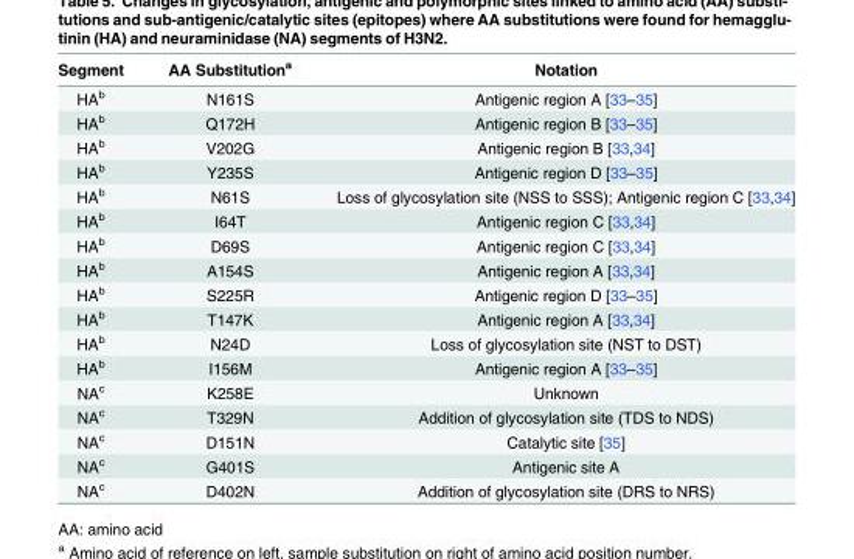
<table><thead><tr><td>Segment</td><td>AA Substitution<sup>a</sup></td><td>Notation</td></tr></thead><tbody><tr><td>HA<sup>b</sup></td><td>N161S</td><td>Antigenic region A [33–35]</td></tr><tr><td>HA<sup>b</sup></td><td>Q172H</td><td>Antigenic region B [33–35]</td></tr><tr><td>HA<sup>b</sup></td><td>V202G</td><td>Antigenic region B [33,34]</td></tr><tr><td>HA<sup>b</sup></td><td>Y235S</td><td>Antigenic region D [33–35]</td></tr><tr><td>HA<sup>b</sup></td><td>N61S</td><td>Loss of glycosylation site (NSS to SSS); Antigenic region C [33,34]</td></tr><tr><td>HA<sup>b</sup></td><td>I64T</td><td>Antigenic region C [33,34]</td></tr><tr><td>HA<sup>b</sup></td><td>D69S</td><td>Antigenic region C [33,34]</td></tr><tr><td>HA<sup>b</sup></td><td>A154S</td><td>Antigenic region A [33,34]</td></tr><tr><td>HA<sup>b</sup></td><td>S225R</td><td>Antigenic region D [33–35]</td></tr><tr><td>HA<sup>b</sup></td><td>T147K</td><td>Antigenic region A [33,34]</td></tr><tr><td>HA<sup>b</sup></td><td>N24D</td><td>Loss of glycosylation site (NST to DST)</td></tr><tr><td>HA<sup>b</sup></td><td>I156M</td><td>Antigenic region A [33–35]</td></tr><tr><td>NA<sup>c</sup></td><td>K258E</td><td>Unknown</td></tr><tr><td>NA<sup>c</sup></td><td>T329N</td><td>Addition of glycosylation site (TDS to NDS)</td></tr><tr><td>NA<sup>c</sup></td><td>D151N</td><td>Catalytic site [35]</td></tr><tr><td>NA<sup>c</sup></td><td>G401S</td><td>Antigenic site A</td></tr><tr><td>NA<sup>c</sup></td><td>D402N</td><td>Addition of glycosylation site (DRS to NRS)</td></tr></tbody></table>